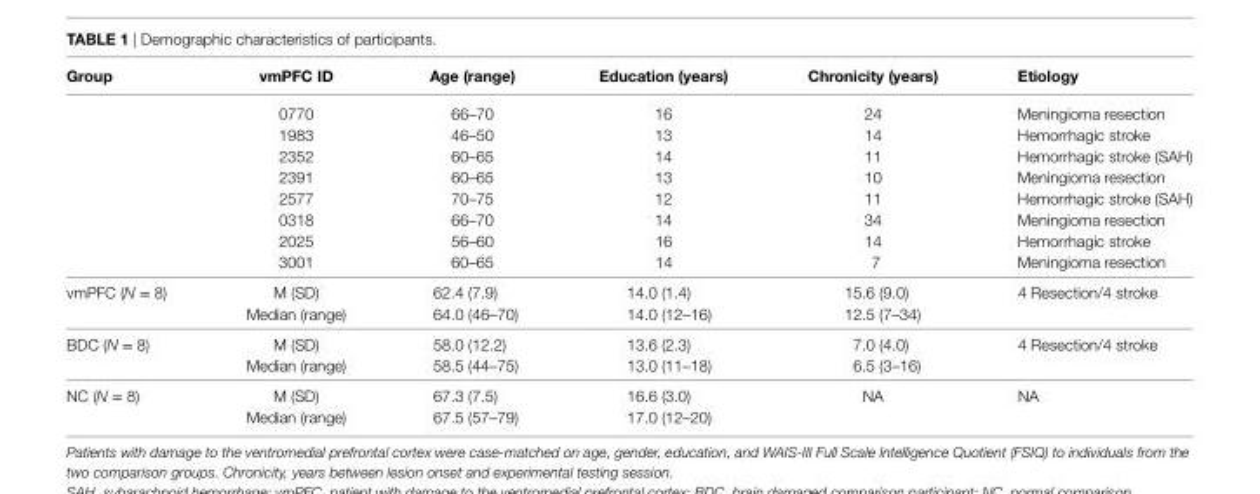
<table><thead><tr><td>group</td><td>vmPFc iD</td><td>age (range)</td><td>education (years)</td><td>chronicity (years)</td><td>etiology</td></tr></thead><tbody><tr><td></td><td>0770</td><td>66–70</td><td>16</td><td>24</td><td>Meningioma resection</td></tr><tr><td></td><td>1983</td><td>46–50</td><td>13</td><td>14</td><td>Hemorrhagic stroke</td></tr><tr><td></td><td>2352</td><td>60–65</td><td>14</td><td>11</td><td>Hemorrhagic stroke (SAH)</td></tr><tr><td></td><td>2391</td><td>60–65</td><td>13</td><td>10</td><td>Meningioma resection</td></tr><tr><td></td><td>2577</td><td>70–75</td><td>12</td><td>11</td><td>Hemorrhagic stroke (SAH)</td></tr><tr><td></td><td>0318</td><td>66–70</td><td>14</td><td>34</td><td>Meningioma resection</td></tr><tr><td></td><td>2025</td><td>56–60</td><td>16</td><td>14</td><td>Hemorrhagic stroke</td></tr><tr><td></td><td>3001</td><td>60–65</td><td>14</td><td>7</td><td>Meningioma resection</td></tr><tr><td rowspan="2">vmPFC (N = 8)</td><td>M (SD)</td><td>62.4 (7.9)</td><td>14.0 (1.4)</td><td>15.6 (9.0)</td><td rowspan="2">4 Resection/4 stroke</td></tr><tr><td>Median (range)</td><td>64.0 (46–70)</td><td>14.0 (12–16)</td><td>12.5 (7–34)</td></tr><tr><td rowspan="2">BDC (N = 8)</td><td>M (SD)</td><td>58.0 (12.2)</td><td>13.6 (2.3)</td><td>7.0 (4.0)</td><td rowspan="2">4 Resection/4 stroke</td></tr><tr><td>Median (range)</td><td>58.5 (44–75)</td><td>13.0 (11–18)</td><td>6.5 (3–16)</td></tr><tr><td rowspan="2">NC (N = 8)</td><td>M (SD)</td><td>67.3 (7.5)</td><td>16.6 (3.0)</td><td rowspan="2">NA</td><td rowspan="2">NA</td></tr><tr><td>Median (range)</td><td>67.5 (57–79)</td><td>17.0 (12–20)</td></tr></tbody></table>